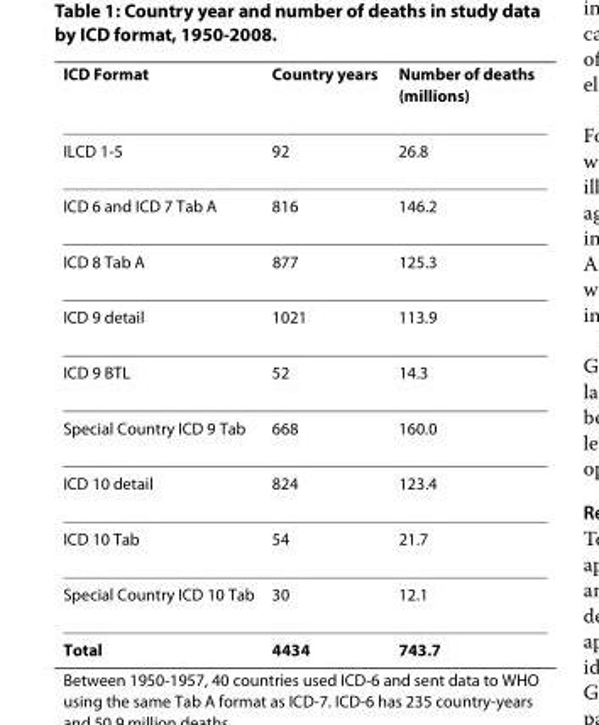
<table><thead><tr><td>ICD Format</td><td>Country years</td><td>Number of deaths (millions)</td></tr></thead><tbody><tr><td>ILCD 1-5</td><td>92</td><td>26.8</td></tr><tr><td>ICD 6 and ICD 7 Tab A</td><td>816</td><td>146.2</td></tr><tr><td>ICD 8 Tab A</td><td>877</td><td>125.3</td></tr><tr><td>ICD 9 detail</td><td>1021</td><td>113.9</td></tr><tr><td>ICD 9 BTL</td><td>52</td><td>14.3</td></tr><tr><td>Special Country ICD 9 Tab</td><td>668</td><td>160.0</td></tr><tr><td>ICD 10 detail</td><td>824</td><td>123.4</td></tr><tr><td>ICD 10 Tab</td><td>54</td><td>21.7</td></tr><tr><td>Special Country ICD 10 Tab</td><td>30</td><td>12.1</td></tr><tr><td>Total</td><td>4434</td><td>743.7</td></tr></tbody></table>